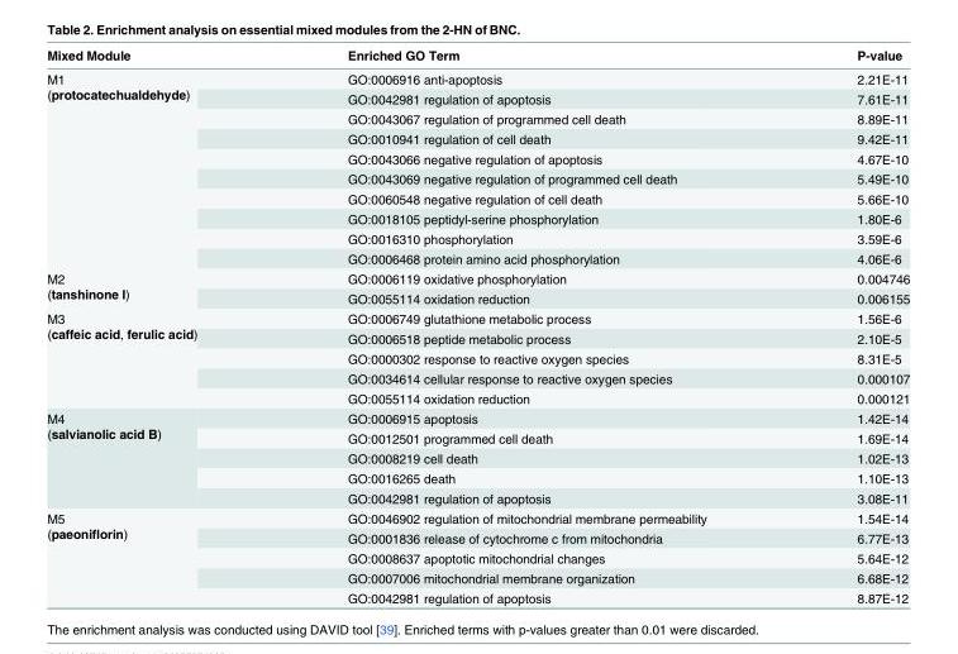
<table><thead><tr><td>Mixed Module</td><td>Enriched GO Term</td><td>P-value</td></tr></thead><tbody><tr><td rowspan="10">M1 (protocatechualdehyde)</td><td>GO:0006916 anti-apoptosis</td><td>2.21E-11</td></tr><tr><td>GO:0042981 regulation of apoptosis</td><td>7.61E-11</td></tr><tr><td>GO:0043067 regulation of programmed cell death</td><td>8.89E-11</td></tr><tr><td>GO:0010941 regulation of cell death</td><td>9.42E-11</td></tr><tr><td>GO:0043066 negative regulation of apoptosis</td><td>4.67E-10</td></tr><tr><td>GO:0043069 negative regulation of programmed cell death</td><td>5.49E-10</td></tr><tr><td>GO:0060548 negative regulation of cell death</td><td>5.66E-10</td></tr><tr><td>GO:0018105 peptidyl-serine phosphorylation</td><td>1.80E-6</td></tr><tr><td>GO:0016310 phosphorylation</td><td>3.59E-6</td></tr><tr><td>GO:0006468 protein amino acid phosphorylation</td><td>4.06E-6</td></tr><tr><td rowspan="2">M2 (tanshinone I)</td><td>GO:0006119 oxidative phosphorylation</td><td>0.004746</td></tr><tr><td>GO:0055114 oxidation reduction</td><td>0.006155</td></tr><tr><td rowspan="5">M3 (caffeic acid, ferulic acid)</td><td>GO:0006749 glutathione metabolic process</td><td>1.56E-6</td></tr><tr><td>GO:0006518 peptide metabolic process</td><td>2.10E-5</td></tr><tr><td>GO:0000302 response to reactive oxygen species</td><td>8.31E-5</td></tr><tr><td>GO:0034614 cellular response to reactive oxygen species</td><td>0.000107</td></tr><tr><td>GO:0055114 oxidation reduction</td><td>0.000121</td></tr><tr><td rowspan="5">M4 (salvianolic acid B)</td><td>GO:0006915 apoptosis</td><td>1.42E-14</td></tr><tr><td>GO:0012501 programmed cell death</td><td>1.69E-14</td></tr><tr><td>GO:0008219 cell death</td><td>1.02E-13</td></tr><tr><td>GO:0016265 death</td><td>1.10E-13</td></tr><tr><td>GO:0042981 regulation of apoptosis</td><td>3.08E-11</td></tr><tr><td rowspan="5">M5 (paeoniflorin)</td><td>GO:0046902 regulation of mitochondrial membrane permeability</td><td>1.54E-14</td></tr><tr><td>GO:0001836 release of cytochrome c from mitochondria</td><td>6.77E-13</td></tr><tr><td>GO:0008637 apoptotic mitochondrial changes</td><td>5.64E-12</td></tr><tr><td>GO:0007006 mitochondrial membrane organization</td><td>6.68E-12</td></tr><tr><td>GO:0042981 regulation of apoptosis</td><td>8.87E-12</td></tr></tbody></table>